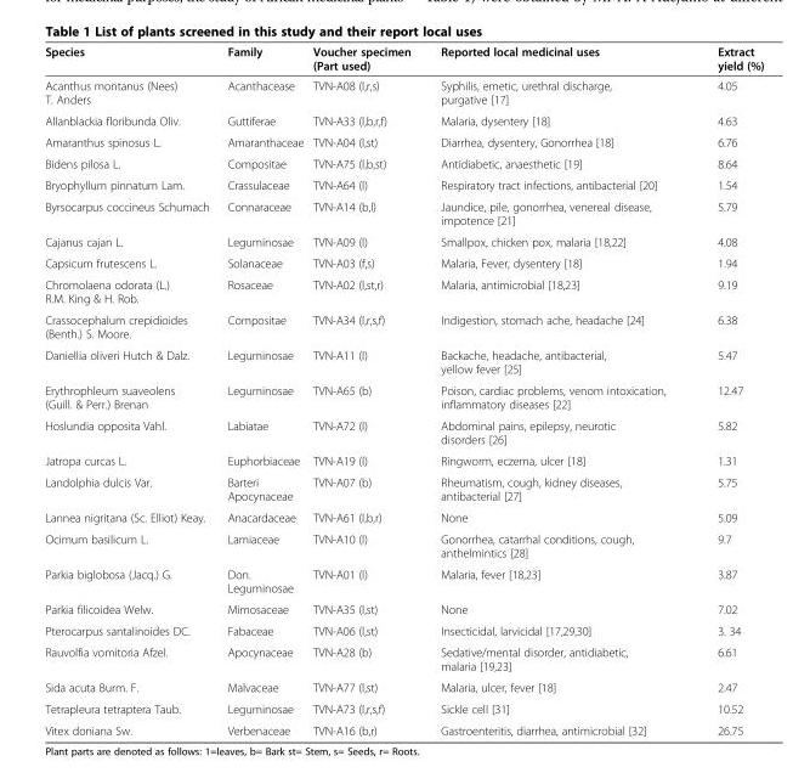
<table><thead><tr><td>Species</td><td>Family</td><td>Voucher specimen (Part used)</td><td>Reported local medicinal uses</td><td>Extract yield (%)</td></tr></thead><tbody><tr><td>Acanthus montanus (Nees) T. Anders</td><td>Acanthacease</td><td>TVN-A08 (l,r,s)</td><td>Syphilis, emetic, urethral discharge, purgative [17]</td><td>4.05</td></tr><tr><td>Allanblackia floribunda Oliv.</td><td>Guttiferae</td><td>TVN-A33 (l,b,r,f)</td><td>Malaria, dysentery [18]</td><td>4.63</td></tr><tr><td>Amaranthus spinosus L.</td><td>Amaranthaceae</td><td>TVN-A04 (l,st)</td><td>Diarrhea, dysentery, Gonorrhea [18]</td><td>6.76</td></tr><tr><td>Bidens pilosa L.</td><td>Compositae</td><td>TVN-A75 (l,b,st)</td><td>Antidiabetic, anaesthetic [19]</td><td>8.64</td></tr><tr><td>Bryophyllum pinnatum Lam.</td><td>Crassulaceae</td><td>TVN-A64 (l)</td><td>Respiratory tract infections, antibacterial [20]</td><td>1.54</td></tr><tr><td>Byrsocarpus coccineus Schumach</td><td>Connaraceae</td><td>TVN-A14 (b,l)</td><td>Jaundice, pile, gonorrhea, venereal disease, impotence [21]</td><td>5.79</td></tr><tr><td>Cajanus cajan L.</td><td>Leguminosae</td><td>TVN-A09 (l)</td><td>Smallpox, chicken pox, malaria [18,22]</td><td>4.08</td></tr><tr><td>Capsicum frutescens L.</td><td>Solanaceae</td><td>TVN-A03 (f,s)</td><td>Malaria, Fever, dysentery [18]</td><td>1.94</td></tr><tr><td>Chromolaena odorata (L.) R.M. King &amp; H. Rob.</td><td>Rosaceae</td><td>TVN-A02 (l,st,r)</td><td>Malaria, antimicrobial [18,23]</td><td>9.19</td></tr><tr><td>Crassocephalum crepidioides (Benth.) S. Moore.</td><td>Compositae</td><td>TVN-A34 (l,r,s,f)</td><td>Indigestion, stomach ache, headache [24]</td><td>6.38</td></tr><tr><td>Daniellia oliveri Hutch &amp; Dalz.</td><td>Leguminosae</td><td>TVN-A11 (l)</td><td>Backache, headache, antibacterial, yellow fever [25]</td><td>5.47</td></tr><tr><td>Erythrophleum suaveolens (Guill. &amp; Perr.) Brenan</td><td>Leguminosae</td><td>TVN-A65 (b)</td><td>Poison, cardiac problems, venom intoxication, inflammatory diseases [22]</td><td>12.47</td></tr><tr><td>Hoslundia opposita Vahl.</td><td>Labiatae</td><td>TVN-A72 (l)</td><td>Abdominal pains, epilepsy, neurotic disorders [26]</td><td>5.82</td></tr><tr><td>Jatropa curcas L.</td><td>Euphorbiaceae</td><td>TVN-A19 (l)</td><td>Ringworm, eczema, ulcer [18]</td><td>1.31</td></tr><tr><td>Landolphia dulcis Var.</td><td>Barteri Apocynaceae</td><td>TVN-A07 (b)</td><td>Rheumatism, cough, kidney diseases, antibacterial [27]</td><td>5.75</td></tr><tr><td>Lannea nigritana (Sc. Elliot) Keay.</td><td>Anacardaceae</td><td>TVN-A61 (l,b,r)</td><td>None</td><td>5.09</td></tr><tr><td>Ocimum basilicum L.</td><td>Lamiaceae</td><td>TVN-A10 (l)</td><td>Gonorrhea, catarrhal conditions, cough, anthelmintics [28]</td><td>9.7</td></tr><tr><td>Parkia biglobosa (Jacq.) G.</td><td>Don. Leguminosae</td><td>TVN-A01 (l)</td><td>Malaria, fever [18,23]</td><td>3.87</td></tr><tr><td>Parkia filicoidea Welw.</td><td>Mimosaceae</td><td>TVN-A35 (l,st)</td><td>None</td><td>7.02</td></tr><tr><td>Pterocarpus santalinoides DC.</td><td>Fabaceae</td><td>TVN-A06 (l,st)</td><td>Insecticidal, larvicidal [17,29,30]</td><td>3. 34</td></tr><tr><td>Rauvolfia vomitoria Afzel.</td><td>Apocynaceae</td><td>TVN-A28 (b)</td><td>Sedative/mental disorder, antidiabetic, malaria [19,23]</td><td>6.61</td></tr><tr><td>Sida acuta Burm. F.</td><td>Malvaceae</td><td>TVN-A77 (l,st)</td><td>Malaria, ulcer, fever [18]</td><td>2.47</td></tr><tr><td>Tetrapleura tetraptera Taub.</td><td>Leguminosae</td><td>TVN-A73 (l,r,s,f)</td><td>Sickle cell [31]</td><td>10.52</td></tr><tr><td>Vitex doniana Sw.</td><td>Verbenaceae</td><td>TVN-A16 (b,r)</td><td>Gastroenteritis, diarrhea, antimicrobial [32]</td><td>26.75</td></tr></tbody></table>